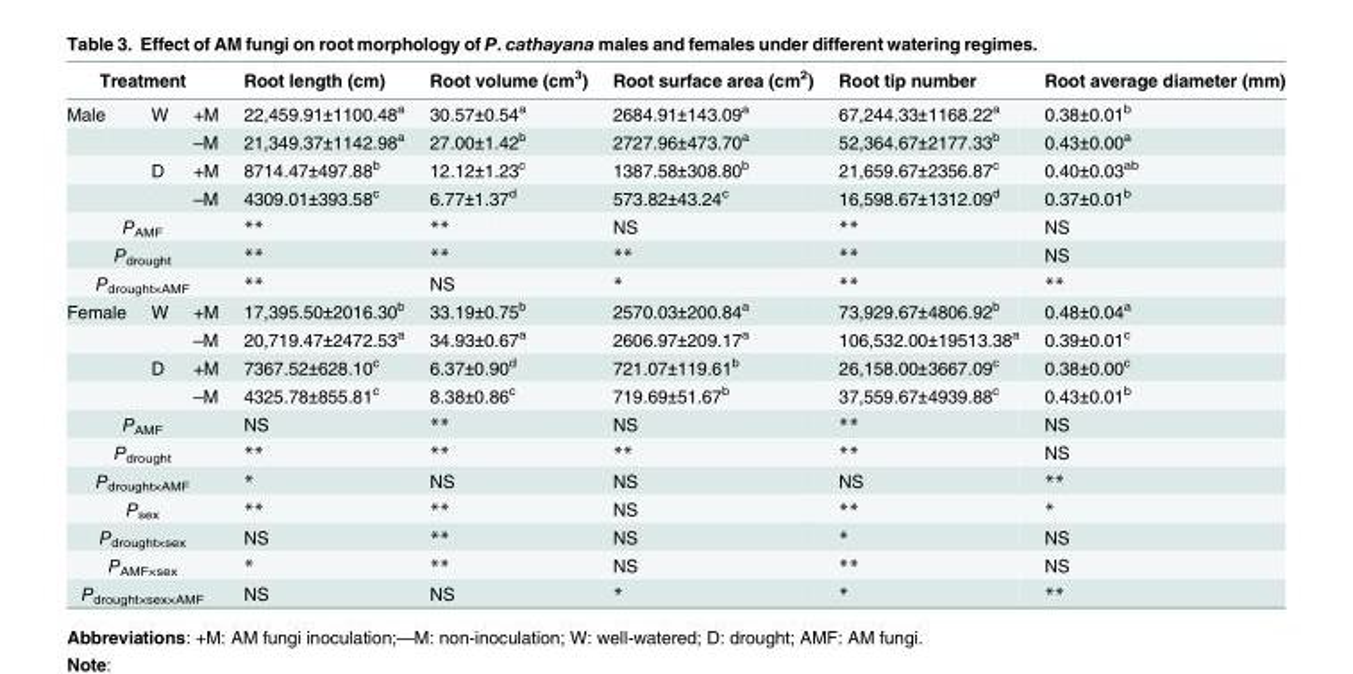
<table><thead><tr><td colspan="3">Treatment</td><td rowspan="2">Root length (cm) 22,459.91±1100.48<sup>a</sup></td><td rowspan="2">Root volume (cm<sup>3</sup>) 30.57±0.54<sup>a</sup></td><td rowspan="2">Root surface area (cm<sup>2</sup>) 2684.91±143.09<sup>a</sup></td><td rowspan="2">Root tip number 67,244.33±1168.22<sup>a</sup></td><td rowspan="2">Root average diameter (mm) 0.38±0.01<sup>b</sup></td></tr><tr><td>Male</td><td>W</td><td>+M</td></tr></thead><tbody><tr><td></td><td></td><td>–M</td><td>21,349.37±1142.98<sup>a</sup></td><td>27.00±1.42<sup>b</sup></td><td>2727.96±473.70<sup>a</sup></td><td>52,364.67±2177.33<sup>b</sup></td><td>0.43±0.00<sup>a</sup></td></tr><tr><td></td><td>D</td><td>+M</td><td>8714.47±497.88<sup>b</sup></td><td>12.12±1.23<sup>c</sup></td><td>1387.58±308.80<sup>b</sup></td><td>21,659.67±2356.87<sup>c</sup></td><td>0.40±0.03<sup>ab</sup></td></tr><tr><td></td><td></td><td>–M</td><td>4309.01±393.58<sup>c</sup></td><td>6.77±1.37<sup>d</sup></td><td>573.82±43.24<sup>c</sup></td><td>16,598.67±1312.09<sup>d</sup></td><td>0.37±0.01<sup>b</sup></td></tr><tr><td colspan="3">P<sub>AMF</sub></td><td>**</td><td>**</td><td>NS</td><td>**</td><td>NS</td></tr><tr><td colspan="3">P<sub>drought</sub></td><td>**</td><td>**</td><td>**</td><td>**</td><td>NS</td></tr><tr><td colspan="3">P<sub>drought×AMF</sub></td><td>**</td><td>NS</td><td>*</td><td>**</td><td>**</td></tr><tr><td rowspan="4">Female</td><td>W</td><td>+M</td><td>17,395.50±2016.30<sup>b</sup></td><td>33.19±0.75<sup>b</sup></td><td>2570.03±200.84<sup>a</sup></td><td>73,929.67±4806.92<sup>b</sup></td><td>0.48±0.04<sup>a</sup></td></tr><tr><td></td><td>–M</td><td>20,719.47±2472.53<sup>a</sup></td><td>34.93±0.67<sup>a</sup></td><td>2606.97±209.17<sup>a</sup></td><td>106,532.00±19513.38<sup>a</sup></td><td>0.39±0.01<sup>c</sup></td></tr><tr><td>D</td><td>+M</td><td>7367.52±628.10<sup>c</sup></td><td>6.37±0.90<sup>d</sup></td><td>721.07±119.61<sup>b</sup></td><td>26,158.00±3667.09<sup>c</sup></td><td>0.38±0.00<sup>c</sup></td></tr><tr><td></td><td>–M</td><td>4325.78±855.81<sup>c</sup></td><td>8.38±0.86<sup>c</sup></td><td>719.69±51.67<sup>b</sup></td><td>37,559.67±4939.88<sup>c</sup></td><td>0.43±0.01<sup>b</sup></td></tr><tr><td colspan="3">P<sub>AMF</sub></td><td>NS</td><td>**</td><td>NS</td><td>**</td><td>NS</td></tr><tr><td colspan="3">P<sub>drought</sub></td><td>**</td><td>**</td><td>**</td><td>**</td><td>NS</td></tr><tr><td colspan="3">P<sub>drought×AMF</sub></td><td>*</td><td>NS</td><td>NS</td><td>NS</td><td>**</td></tr><tr><td colspan="3">P<sub>sex</sub></td><td>**</td><td>**</td><td>NS</td><td>**</td><td>*</td></tr><tr><td colspan="3">P<sub>drought×sex</sub></td><td>NS</td><td>**</td><td>NS</td><td>*</td><td>NS</td></tr><tr><td colspan="3">P<sub>AMF×sex</sub></td><td>*</td><td>**</td><td>NS</td><td>**</td><td>NS</td></tr><tr><td colspan="3">P<sub>drought×sex×AMF</sub></td><td>NS</td><td>NS</td><td>*</td><td>*</td><td>**</td></tr></tbody></table>